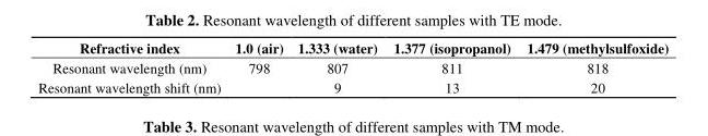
<table><thead><tr><td>Refractive index</td><td>1.0 (air)</td><td>1.333 (water)</td><td>1.377 (isopropanol)</td><td>1.479 (methylsulfoxide)</td></tr></thead><tbody><tr><td>Resonant wavelength (nm)</td><td>798</td><td>807</td><td>811</td><td>818</td></tr><tr><td>Resonant wavelength shift (nm)</td><td></td><td>9</td><td>13</td><td>20</td></tr></tbody></table>